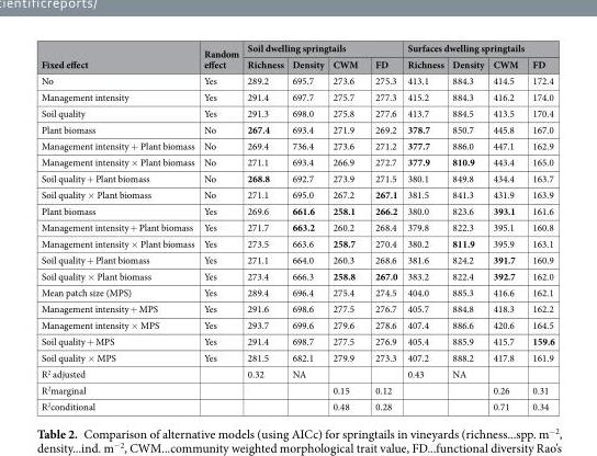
<table><thead><tr><td rowspan="2">Fixed effect</td><td rowspan="2">Random effect</td><td colspan="4">Soil dwelling springtails</td><td colspan="4">Surfaces dwelling springtails</td></tr><tr><td>Richness</td><td>Density</td><td>CWM</td><td>FD</td><td>Richness</td><td>Density</td><td>CWM</td><td>FD</td></tr></thead><tbody><tr><td>No</td><td>Yes</td><td>289.2</td><td>695.7</td><td>273.6</td><td>275.3</td><td>413.1</td><td>884.3</td><td>414.5</td><td>172.4</td></tr><tr><td>Management intensity</td><td>Yes</td><td>291.4</td><td>697.7</td><td>275.7</td><td>277.3</td><td>415.2</td><td>884.3</td><td>416.2</td><td>174.0</td></tr><tr><td>Soil quality</td><td>Yes</td><td>291.3</td><td>698.0</td><td>275.8</td><td>277.6</td><td>413.7</td><td>884.5</td><td>413.5</td><td>170.4</td></tr><tr><td>Plant biomass</td><td>No</td><td>267.4</td><td>693.4</td><td>271.9</td><td>269.2</td><td>378.7</td><td>850.7</td><td>445.8</td><td>167.0</td></tr><tr><td>Management intensity + Plant biomass</td><td>No</td><td>269.4</td><td>736.4</td><td>273.6</td><td>271.2</td><td>377.7</td><td>886.0</td><td>447.1</td><td>162.9</td></tr><tr><td>Management intensity × Plant biomass</td><td>No</td><td>271.1</td><td>693.4</td><td>266.9</td><td>272.7</td><td>377.9</td><td>810.9</td><td>443.4</td><td>165.0</td></tr><tr><td>Soil quality + Plant biomass</td><td>No</td><td>268.8</td><td>692.7</td><td>273.9</td><td>271.5</td><td>380.1</td><td>849.8</td><td>434.4</td><td>163.7</td></tr><tr><td>Soil quality × Plant biomass</td><td>No</td><td>271.1</td><td>695.0</td><td>267.2</td><td>267.1</td><td>381.5</td><td>841.3</td><td>431.9</td><td>163.9</td></tr><tr><td>Plant biomass</td><td>Yes</td><td>269.6</td><td>661.6</td><td>258.1</td><td>266.2</td><td>380.0</td><td>823.6</td><td>393.1</td><td>161.6</td></tr><tr><td>Management intensity + Plant biomass</td><td>Yes</td><td>271.7</td><td>663.2</td><td>260.2</td><td>268.4</td><td>379.8</td><td>822.3</td><td>395.1</td><td>160.8</td></tr><tr><td>Management intensity × Plant biomass</td><td>Yes</td><td>273.5</td><td>663.6</td><td>258.7</td><td>270.4</td><td>380.2</td><td>811.9</td><td>395.9</td><td>163.1</td></tr><tr><td>Soil quality + Plant biomass</td><td>Yes</td><td>271.1</td><td>664.0</td><td>260.3</td><td>268.6</td><td>381.6</td><td>824.2</td><td>391.7</td><td>160.9</td></tr><tr><td>Soil quality × Plant biomass</td><td>Yes</td><td>273.4</td><td>666.3</td><td>258.8</td><td>267.0</td><td>383.2</td><td>822.4</td><td>392.7</td><td>162.0</td></tr><tr><td>Mean patch size (MPS)</td><td>Yes</td><td>289.4</td><td>696.4</td><td>275.4</td><td>274.5</td><td>404.0</td><td>885.3</td><td>416.6</td><td>162.1</td></tr><tr><td>Management intensity + MPS</td><td>Yes</td><td>291.6</td><td>698.6</td><td>277.5</td><td>276.7</td><td>405.7</td><td>884.8</td><td>418.3</td><td>162.2</td></tr><tr><td>Management intensity × MPS</td><td>Yes</td><td>293.7</td><td>699.6</td><td>279.6</td><td>278.6</td><td>407.4</td><td>886.6</td><td>420.6</td><td>164.5</td></tr><tr><td>Soil quality + MPS</td><td>Yes</td><td>291.4</td><td>698.7</td><td>277.5</td><td>276.9</td><td>405.4</td><td>885.9</td><td>415.7</td><td>159.6</td></tr><tr><td>Soil quality × MPS</td><td>Yes</td><td>281.5</td><td>682.1</td><td>279.9</td><td>273.3</td><td>407.2</td><td>888.2</td><td>417.8</td><td>161.9</td></tr><tr><td>R<sup>2</sup> adjusted</td><td></td><td>0.32</td><td>NA</td><td></td><td></td><td>0.43</td><td>NA</td><td></td><td></td></tr><tr><td>R<sup>2</sup>marginal</td><td></td><td></td><td></td><td>0.15</td><td>0.12</td><td></td><td></td><td>0.26</td><td>0.31</td></tr><tr><td>R<sup>2</sup>conditional</td><td></td><td></td><td></td><td>0.48</td><td>0.28</td><td></td><td></td><td>0.71</td><td>0.34</td></tr></tbody></table>